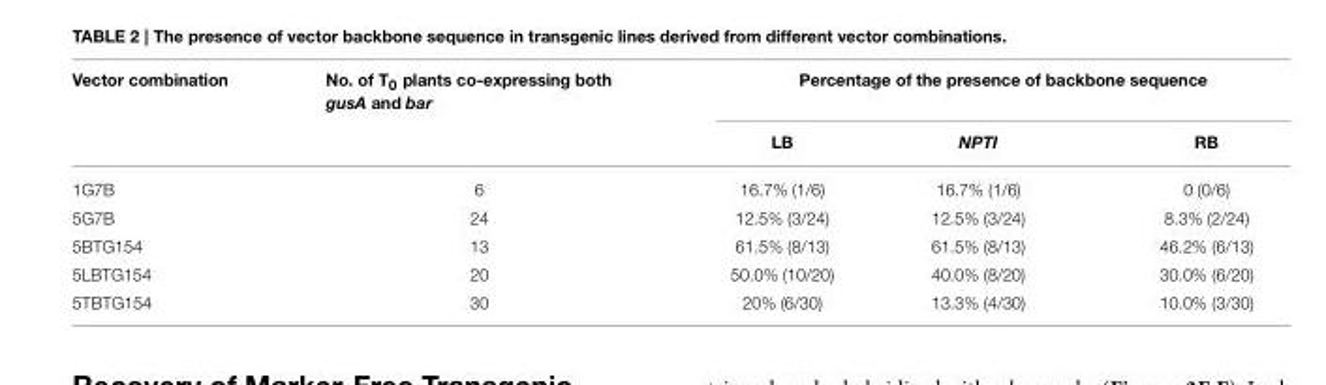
<table><thead><tr><td rowspan="2">Vector combination</td><td rowspan="2">No. of T<sub>0</sub> plants co-expressing both gusA and bar</td><td colspan="3">Percentage of the presence of backbone sequence</td></tr><tr><td>LB</td><td>NPTI</td><td>RB</td></tr></thead><tbody><tr><td>1G7B</td><td>6</td><td>16.7% (1/6)</td><td>16.7% (1/6)</td><td>0 (0/6)</td></tr><tr><td>5G7B</td><td>24</td><td>12.5% (3/24)</td><td>12.5% (3/24)</td><td>8.3% (2/24)</td></tr><tr><td>5BTG154</td><td>13</td><td>61.5% (8/13)</td><td>61.5% (8/13)</td><td>46.2% (6/13)</td></tr><tr><td>5LBTG154</td><td>20</td><td>50.0% (10/20)</td><td>40.0% (8/20)</td><td>30.0% (6/20)</td></tr><tr><td>5TBTG154</td><td>30</td><td>20% (6/30)</td><td>13.3% (4/30)</td><td>10.0% (3/30)</td></tr></tbody></table>